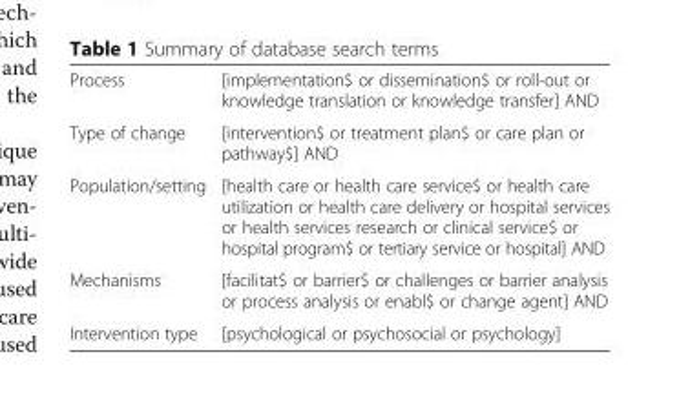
<table><tbody><tr><td>Process</td><td>[implementation$ or dissemination$ or roll-out or knowledge translation or knowledge transfer] AND</td></tr><tr><td>Type of change</td><td>[intervention$ or treatment plan$ or care plan or pathway$] AND</td></tr><tr><td>Population/setting</td><td>[health care or health care service$ or health care utilization or health care delivery or hospital services or health services research or clinical service$ or hospital program$ or tertiary service or hospital] AND</td></tr><tr><td>Mechanisms</td><td>[facilitat$ or barrier$ or challenges or barrier analysis or process analysis or enabl$ or change agent] AND</td></tr><tr><td>Intervention type</td><td>[psychological or psychosocial or psychology]</td></tr></tbody></table>